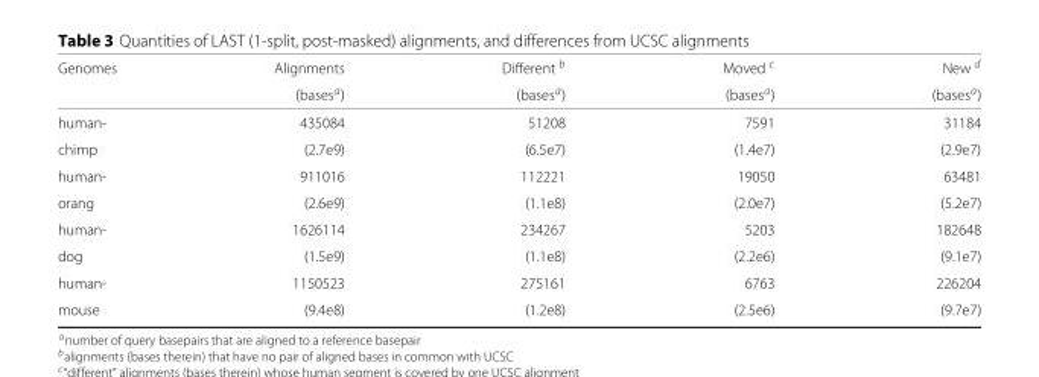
<table><thead><tr><td rowspan="2">Genomes</td><td rowspan="2">Alignments (bases<sup>a</sup>)</td><td rowspan="2">Different <sup>b</sup> (bases<sup>a</sup>)</td><td rowspan="2">Moved <sup>c</sup> (bases<sup>a</sup>)</td><td rowspan="2">New <sup>d</sup> (bases<sup>a</sup>)</td></tr><tr></tr></thead><tbody><tr><td>human-</td><td>435084</td><td>51208</td><td>7591</td><td>31184</td></tr><tr><td>chimp</td><td>(2.7e9)</td><td>(6.5e7)</td><td>(1.4e7)</td><td>(2.9e7)</td></tr><tr><td>human-</td><td>911016</td><td>112221</td><td>19050</td><td>63481</td></tr><tr><td>orang</td><td>(2.6e9)</td><td>(1.1e8)</td><td>(2.0e7)</td><td>(5.2e7)</td></tr><tr><td>human-</td><td>1626114</td><td>234267</td><td>5203</td><td>182648</td></tr><tr><td>dog</td><td>(1.5e9)</td><td>(1.1e8)</td><td>(2.2e6)</td><td>(9.1e7)</td></tr><tr><td>human-</td><td>1150523</td><td>275161</td><td>6763</td><td>226204</td></tr><tr><td>mouse</td><td>(9.4e8)</td><td>(1.2e8)</td><td>(2.5e6)</td><td>(9.7e7)</td></tr></tbody></table>